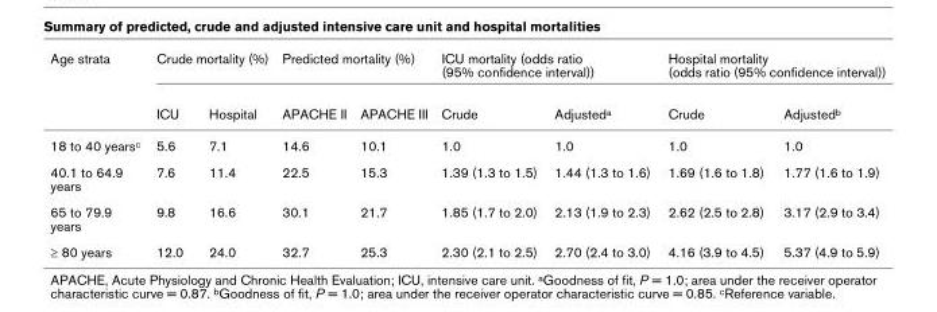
<table><thead><tr><td rowspan="2">Age strata</td><td colspan="2">Crude mortality (%)</td><td colspan="2">Predicted mortality (%)</td><td colspan="2">ICU mortality (odds ratio (95% confidence interval))</td><td colspan="2">Hospital mortality (odds ratio (95% confidence interval))</td></tr><tr><td>ICU</td><td>Hospital</td><td>APACHE II</td><td>APACHE III</td><td>Crude</td><td>Adjusted<sup>a</sup></td><td>Crude</td><td>Adjusted<sup>b</sup></td></tr></thead><tbody><tr><td>18 to 40 years<sup>c</sup></td><td>5.6</td><td>7.1</td><td>14.6</td><td>10.1</td><td>1.0</td><td>1.0</td><td>1.0</td><td>1.0</td></tr><tr><td>40.1 to 64.9 years</td><td>7.6</td><td>11.4</td><td>22.5</td><td>15.3</td><td>1.39 (1.3 to 1.5)</td><td>1.44 (1.3 to 1.6)</td><td>1.69 (1.6 to 1.8)</td><td>1.77 (1.6 to 1.9)</td></tr><tr><td>65 to 79.9 years</td><td>9.8</td><td>16.6</td><td>30.1</td><td>21.7</td><td>1.85 (1.7 to 2.0)</td><td>2.13 (1.9 to 2.3)</td><td>2.62 (2.5 to 2.8)</td><td>3.17 (2.9 to 3.4)</td></tr><tr><td>≥ 80 years</td><td>12.0</td><td>24.0</td><td>32.7</td><td>25.3</td><td>2.30 (2.1 to 2.5)</td><td>2.70 (2.4 to 3.0)</td><td>4.16 (3.9 to 4.5)</td><td>5.37 (4.9 to 5.9)</td></tr></tbody></table>